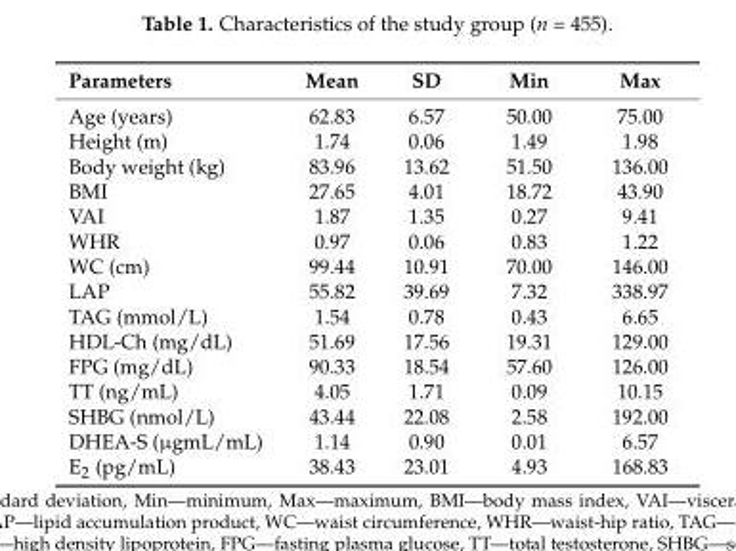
<table><thead><tr><td>Parameters</td><td>Mean</td><td>SD</td><td>Min</td><td>Max</td></tr></thead><tbody><tr><td>Age (years)</td><td>62.83</td><td>6.57</td><td>50.00</td><td>75.00</td></tr><tr><td>Height (m)</td><td>1.74</td><td>0.06</td><td>1.49</td><td>1.98</td></tr><tr><td>Body weight (kg)</td><td>83.96</td><td>13.62</td><td>51.50</td><td>136.00</td></tr><tr><td>BMI</td><td>27.65</td><td>4.01</td><td>18.72</td><td>43.90</td></tr><tr><td>VAI</td><td>1.87</td><td>1.35</td><td>0.27</td><td>9.41</td></tr><tr><td>WHR</td><td>0.97</td><td>0.06</td><td>0.83</td><td>1.22</td></tr><tr><td>WC (cm)</td><td>99.44</td><td>10.91</td><td>70.00</td><td>146.00</td></tr><tr><td>LAP</td><td>55.82</td><td>39.69</td><td>7.32</td><td>338.97</td></tr><tr><td>TAG (mmol/L)</td><td>1.54</td><td>0.78</td><td>0.43</td><td>6.65</td></tr><tr><td>HDL-Ch (mg/dL)</td><td>51.69</td><td>17.56</td><td>19.31</td><td>129.00</td></tr><tr><td>FPG (mg/dL)</td><td>90.33</td><td>18.54</td><td>57.60</td><td>126.00</td></tr><tr><td>TT (ng/mL)</td><td>4.05</td><td>1.71</td><td>0.09</td><td>10.15</td></tr><tr><td>SHBG (nmol/L)</td><td>43.44</td><td>22.08</td><td>2.58</td><td>192.00</td></tr><tr><td>DHEA-S (µgmL/mL)</td><td>1.14</td><td>0.90</td><td>0.01</td><td>6.57</td></tr><tr><td>E<sub>2</sub> (pg/mL)</td><td>38.43</td><td>23.01</td><td>4.93</td><td>168.83</td></tr></tbody></table>